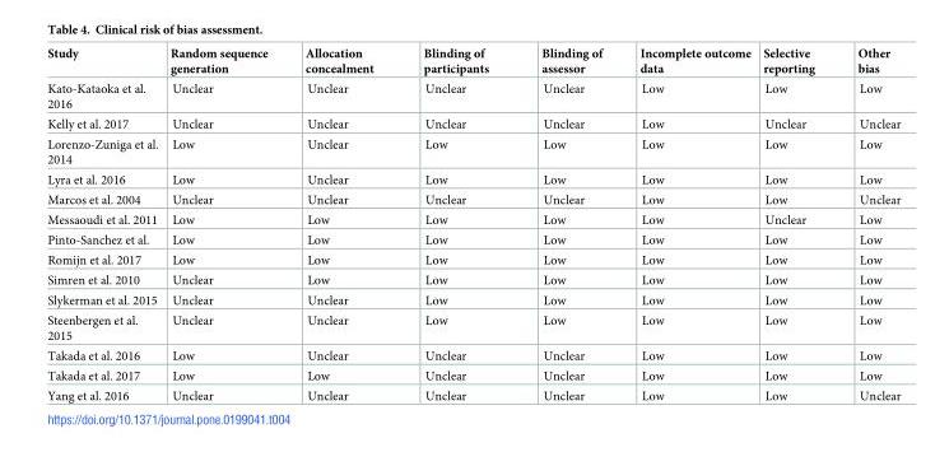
<table><thead><tr><td>Study</td><td>Random sequence generation</td><td>Allocation concealment</td><td>Blinding of participants</td><td>Blinding of assessor</td><td>Incomplete outcome data</td><td>Selective reporting</td><td>Other bias</td></tr></thead><tbody><tr><td>Kato-Kataoka et al. 2016</td><td>Unclear</td><td>Unclear</td><td>Unclear</td><td>Unclear</td><td>Low</td><td>Low</td><td>Low</td></tr><tr><td>Kelly et al. 2017</td><td>Unclear</td><td>Unclear</td><td>Unclear</td><td>Unclear</td><td>Low</td><td>Unclear</td><td>Unclear</td></tr><tr><td>Lorenzo-Zuniga et al. 2014</td><td>Low</td><td>Unclear</td><td>Low</td><td>Low</td><td>Low</td><td>Low</td><td>Low</td></tr><tr><td>Lyra et al. 2016</td><td>Low</td><td>Unclear</td><td>Low</td><td>Low</td><td>Low</td><td>Low</td><td>Low</td></tr><tr><td>Marcos et al. 2004</td><td>Unclear</td><td>Unclear</td><td>Unclear</td><td>Unclear</td><td>Low</td><td>Low</td><td>Unclear</td></tr><tr><td>Messaoudi et al. 2011</td><td>Low</td><td>Low</td><td>Low</td><td>Low</td><td>Low</td><td>Unclear</td><td>Low</td></tr><tr><td>Pinto-Sanchez et al.</td><td>Low</td><td>Low</td><td>Low</td><td>Low</td><td>Low</td><td>Low</td><td>Low</td></tr><tr><td>Romijn et al. 2017</td><td>Low</td><td>Low</td><td>Low</td><td>Low</td><td>Low</td><td>Low</td><td>Low</td></tr><tr><td>Simren et al. 2010</td><td>Unclear</td><td>Low</td><td>Low</td><td>Low</td><td>Low</td><td>Low</td><td>Low</td></tr><tr><td>Slykerman et al. 2015</td><td>Unclear</td><td>Unclear</td><td>Low</td><td>Low</td><td>Low</td><td>Low</td><td>Low</td></tr><tr><td>Steenbergen et al. 2015</td><td>Unclear</td><td>Unclear</td><td>Low</td><td>Low</td><td>Low</td><td>Low</td><td>Low</td></tr><tr><td>Takada et al. 2016</td><td>Low</td><td>Unclear</td><td>Unclear</td><td>Unclear</td><td>Low</td><td>Low</td><td>Low</td></tr><tr><td>Takada et al. 2017</td><td>Low</td><td>Low</td><td>Unclear</td><td>Unclear</td><td>Low</td><td>Low</td><td>Low</td></tr><tr><td>Yang et al. 2016</td><td>Unclear</td><td>Unclear</td><td>Unclear</td><td>Unclear</td><td>Low</td><td>Low</td><td>Unclear</td></tr></tbody></table>